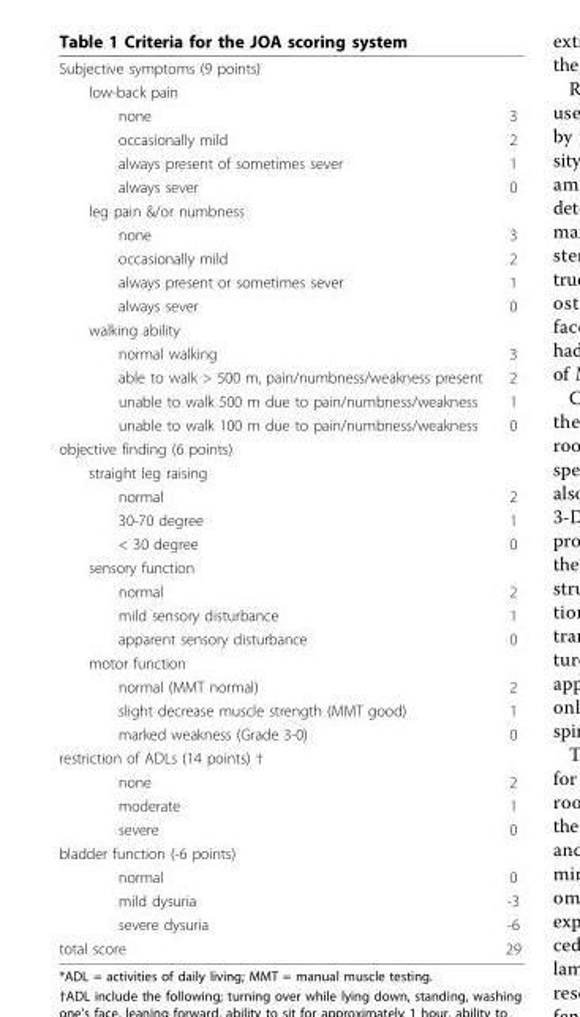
<table><tbody><tr><td colspan="2">Subjective symptoms (9 points)</td></tr><tr><td colspan="2">low-back pain</td></tr><tr><td>none</td><td>3</td></tr><tr><td>occasionally mild</td><td>2</td></tr><tr><td>always present of sometimes sever</td><td>1</td></tr><tr><td>always sever</td><td>0</td></tr><tr><td colspan="2">leg pain &amp;/or numbness</td></tr><tr><td>none</td><td>3</td></tr><tr><td>occasionally mild</td><td>2</td></tr><tr><td>always present or sometimes sever</td><td>1</td></tr><tr><td>always sever</td><td>0</td></tr><tr><td colspan="2">walking ability</td></tr><tr><td>normal walking</td><td>3</td></tr><tr><td>able to walk &gt; 500 m, pain/numbness/weakness present</td><td>2</td></tr><tr><td>unable to walk 500 m due to pain/numbness/weakness</td><td>1</td></tr><tr><td>unable to walk 100 m due to pain/numbness/weakness</td><td>0</td></tr><tr><td colspan="2">objective finding (6 points)</td></tr><tr><td colspan="2">straight leg raising</td></tr><tr><td>normal</td><td>2</td></tr><tr><td>30-70 degree</td><td>1</td></tr><tr><td>&lt; 30 degree</td><td>0</td></tr><tr><td colspan="2">sensory function</td></tr><tr><td>normal</td><td>2</td></tr><tr><td>mild sensory disturbance</td><td>1</td></tr><tr><td>apparent sensory disturbance</td><td>0</td></tr><tr><td colspan="2">motor function</td></tr><tr><td>normal (MMT normal)</td><td>2</td></tr><tr><td>slight decrease muscle strength (MMT good)</td><td>1</td></tr><tr><td>marked weakness (Grade 3-0)</td><td>0</td></tr><tr><td colspan="2">restriction of ADLs (14 points) †</td></tr><tr><td>none</td><td>2</td></tr><tr><td>moderate</td><td>1</td></tr><tr><td>severe</td><td>0</td></tr><tr><td colspan="2">bladder function (-6 points)</td></tr><tr><td>normal</td><td>0</td></tr><tr><td>mild dysuria</td><td>-3</td></tr><tr><td>severe dysuria</td><td>-6</td></tr><tr><td>total score</td><td>29</td></tr></tbody></table>